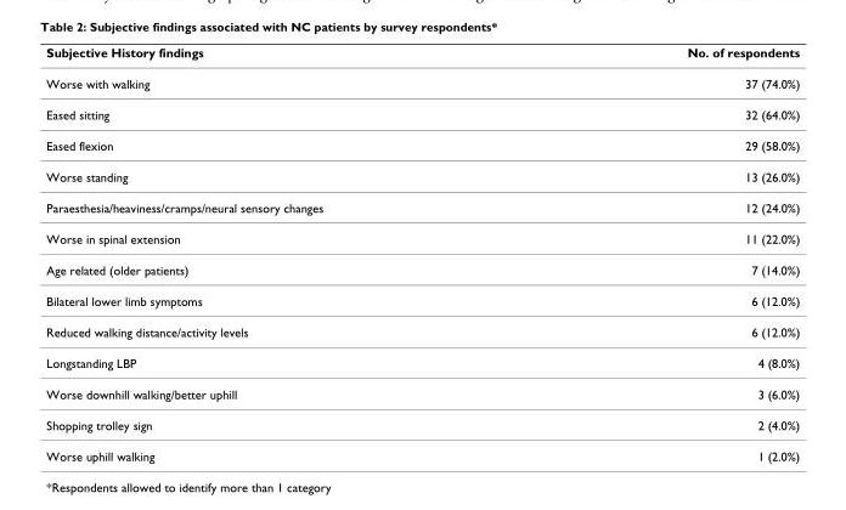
<table><thead><tr><td>Subjective History findings</td><td>No. of respondents</td></tr></thead><tbody><tr><td>Worse with walking</td><td>37 (74.0%)</td></tr><tr><td>Eased sitting</td><td>32 (64.0%)</td></tr><tr><td>Eased flexion</td><td>29 (58.0%)</td></tr><tr><td>Worse standing</td><td>13 (26.0%)</td></tr><tr><td>Paraesthesia/heaviness/cramps/neural sensory changes</td><td>12 (24.0%)</td></tr><tr><td>Worse in spinal extension</td><td>11 (22.0%)</td></tr><tr><td>Age related (older patients)</td><td>7 (14.0%)</td></tr><tr><td>Bilateral lower limb symptoms</td><td>6 (12.0%)</td></tr><tr><td>Reduced walking distance/activity levels</td><td>6 (12.0%)</td></tr><tr><td>Longstanding LBP</td><td>4 (8.0%)</td></tr><tr><td>Worse downhill walking/better uphill</td><td>3 (6.0%)</td></tr><tr><td>Shopping trolley sign</td><td>2 (4.0%)</td></tr><tr><td>Worse uphill walking</td><td>1 (2.0%)</td></tr></tbody></table>